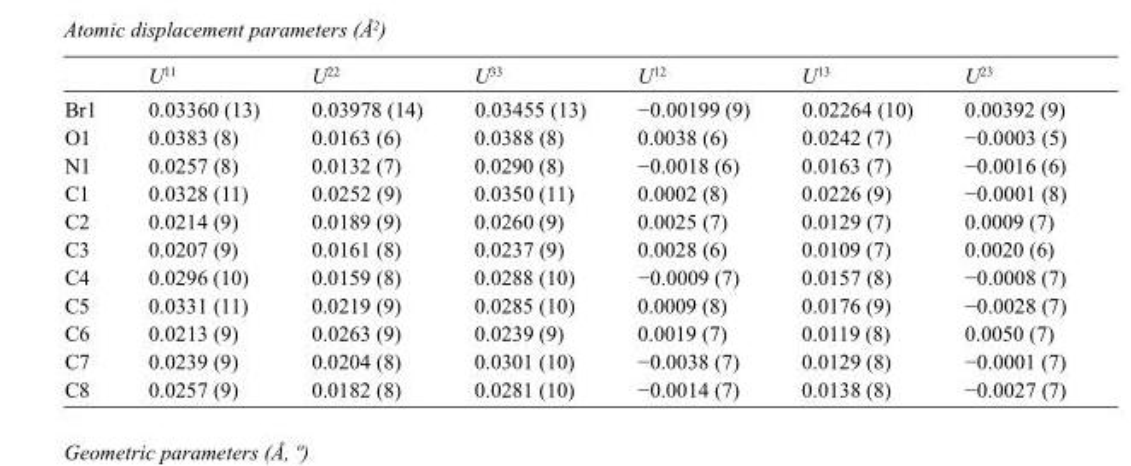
<table><thead><tr><td></td><td>U<sup>11</sup></td><td>U<sup>22</sup></td><td>U<sup>33</sup></td><td>U<sup>12</sup></td><td>U<sup>13</sup></td><td>U<sup>23</sup></td></tr></thead><tbody><tr><td>Br1</td><td>0.03360 (13)</td><td>0.03978 (14)</td><td>0.03455 (13)</td><td>−0.00199 (9)</td><td>0.02264 (10)</td><td>0.00392 (9)</td></tr><tr><td>O1</td><td>0.0383 (8)</td><td>0.0163 (6)</td><td>0.0388 (8)</td><td>0.0038 (6)</td><td>0.0242 (7)</td><td>−0.0003 (5)</td></tr><tr><td>N1</td><td>0.0257 (8)</td><td>0.0132 (7)</td><td>0.0290 (8)</td><td>−0.0018 (6)</td><td>0.0163 (7)</td><td>−0.0016 (6)</td></tr><tr><td>C1</td><td>0.0328 (11)</td><td>0.0252 (9)</td><td>0.0350 (11)</td><td>0.0002 (8)</td><td>0.0226 (9)</td><td>−0.0001 (8)</td></tr><tr><td>C2</td><td>0.0214 (9)</td><td>0.0189 (9)</td><td>0.0260 (9)</td><td>0.0025 (7)</td><td>0.0129 (7)</td><td>0.0009 (7)</td></tr><tr><td>C3</td><td>0.0207 (9)</td><td>0.0161 (8)</td><td>0.0237 (9)</td><td>0.0028 (6)</td><td>0.0109 (7)</td><td>0.0020 (6)</td></tr><tr><td>C4</td><td>0.0296 (10)</td><td>0.0159 (8)</td><td>0.0288 (10)</td><td>−0.0009 (7)</td><td>0.0157 (8)</td><td>−0.0008 (7)</td></tr><tr><td>C5</td><td>0.0331 (11)</td><td>0.0219 (9)</td><td>0.0285 (10)</td><td>0.0009 (8)</td><td>0.0176 (9)</td><td>−0.0028 (7)</td></tr><tr><td>C6</td><td>0.0213 (9)</td><td>0.0263 (9)</td><td>0.0239 (9)</td><td>0.0019 (7)</td><td>0.0119 (8)</td><td>0.0050 (7)</td></tr><tr><td>C7</td><td>0.0239 (9)</td><td>0.0204 (8)</td><td>0.0301 (10)</td><td>−0.0038 (7)</td><td>0.0129 (8)</td><td>−0.0001 (7)</td></tr><tr><td>C8</td><td>0.0257 (9)</td><td>0.0182 (8)</td><td>0.0281 (10)</td><td>−0.0014 (7)</td><td>0.0138 (8)</td><td>−0.0027 (7)</td></tr></tbody></table>